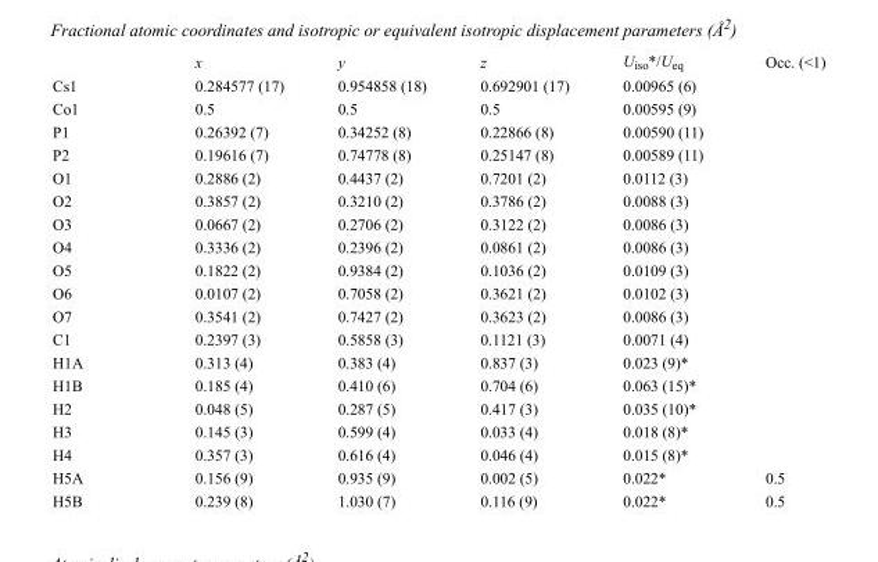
<table><thead><tr><td></td><td>x</td><td>y</td><td>z</td><td>U<sub>iso</sub>*/U<sub>eq</sub></td><td>Occ. (&lt;1)</td></tr></thead><tbody><tr><td>Cs1</td><td>0.284577 (17)</td><td>0.954858 (18)</td><td>0.692901 (17)</td><td>0.00965 (6)</td><td></td></tr><tr><td>Co1</td><td>0.5</td><td>0.5</td><td>0.5</td><td>0.00595 (9)</td><td></td></tr><tr><td>P1</td><td>0.26392 (7)</td><td>0.34252 (8)</td><td>0.22866 (8)</td><td>0.00590 (11)</td><td></td></tr><tr><td>P2</td><td>0.19616 (7)</td><td>0.74778 (8)</td><td>0.25147 (8)</td><td>0.00589 (11)</td><td></td></tr><tr><td>O1</td><td>0.2886 (2)</td><td>0.4437 (2)</td><td>0.7201 (2)</td><td>0.0112 (3)</td><td></td></tr><tr><td>O2</td><td>0.3857 (2)</td><td>0.3210 (2)</td><td>0.3786 (2)</td><td>0.0088 (3)</td><td></td></tr><tr><td>O3</td><td>0.0667 (2)</td><td>0.2706 (2)</td><td>0.3122 (2)</td><td>0.0086 (3)</td><td></td></tr><tr><td>O4</td><td>0.3336 (2)</td><td>0.2396 (2)</td><td>0.0861 (2)</td><td>0.0086 (3)</td><td></td></tr><tr><td>O5</td><td>0.1822 (2)</td><td>0.9384 (2)</td><td>0.1036 (2)</td><td>0.0109 (3)</td><td></td></tr><tr><td>O6</td><td>0.0107 (2)</td><td>0.7058 (2)</td><td>0.3621 (2)</td><td>0.0102 (3)</td><td></td></tr><tr><td>O7</td><td>0.3541 (2)</td><td>0.7427 (2)</td><td>0.3623 (2)</td><td>0.0086 (3)</td><td></td></tr><tr><td>C1</td><td>0.2397 (3)</td><td>0.5858 (3)</td><td>0.1121 (3)</td><td>0.0071 (4)</td><td></td></tr><tr><td>H1A</td><td>0.313 (4)</td><td>0.383 (4)</td><td>0.837 (3)</td><td>0.023 (9)*</td><td></td></tr><tr><td>H1B</td><td>0.185 (4)</td><td>0.410 (6)</td><td>0.704 (6)</td><td>0.063 (15)*</td><td></td></tr><tr><td>H2</td><td>0.048 (5)</td><td>0.287 (5)</td><td>0.417 (3)</td><td>0.035 (10)*</td><td></td></tr><tr><td>H3</td><td>0.145 (3)</td><td>0.599 (4)</td><td>0.033 (4)</td><td>0.018 (8)*</td><td></td></tr><tr><td>H4</td><td>0.357 (3)</td><td>0.616 (4)</td><td>0.046 (4)</td><td>0.015 (8)*</td><td></td></tr><tr><td>H5A</td><td>0.156 (9)</td><td>0.935 (9)</td><td>0.002 (5)</td><td>0.022*</td><td>0.5</td></tr><tr><td>H5B</td><td>0.239 (8)</td><td>1.030 (7)</td><td>0.116 (9)</td><td>0.022*</td><td>0.5</td></tr></tbody></table>